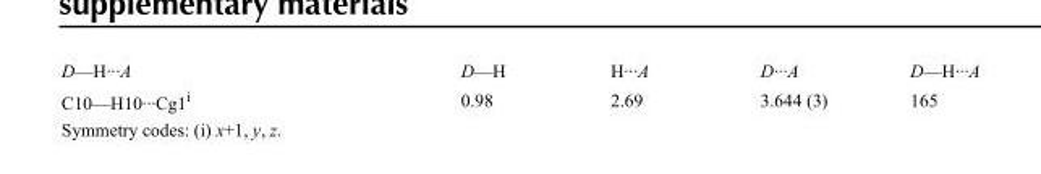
<table><tbody><tr><td>D—H···A</td><td>D—H</td><td>H···A</td><td>D···A</td><td>D—H···A</td></tr><tr><td>C10—H10···Cg1<sup>i</sup></td><td>0.98</td><td>2.69</td><td>3.644 (3)</td><td>165</td></tr></tbody></table>